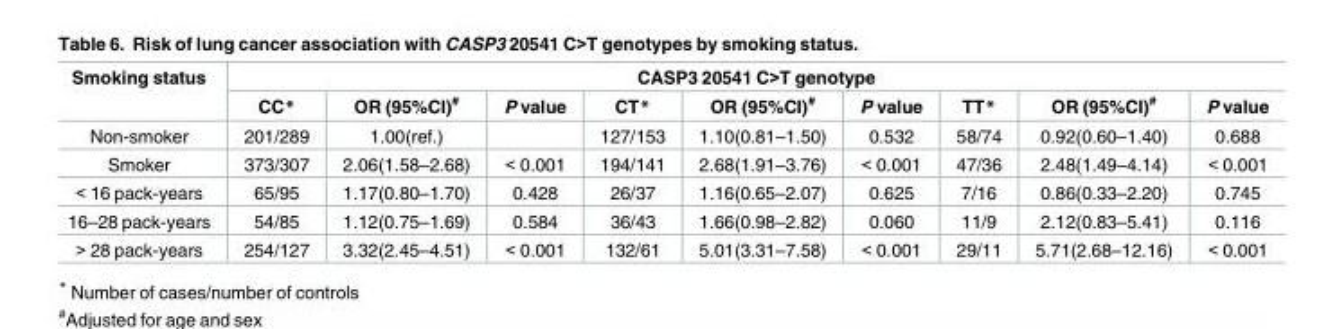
<table><thead><tr><td rowspan="2">Smoking status</td><td colspan="9">CASP3 20541 C&gt;T genotype</td></tr><tr><td>CC*</td><td>OR (95%CI)<sup>#</sup></td><td>P value</td><td>CT*</td><td>OR (95%CI)<sup>#</sup></td><td>P value</td><td>TT*</td><td>OR (95%CI)<sup>#</sup></td><td>P value</td></tr></thead><tbody><tr><td>Non-smoker</td><td>201/289</td><td>1.00(ref.)</td><td></td><td>127/153</td><td>1.10(0.81–1.50)</td><td>0.532</td><td>58/74</td><td>0.92(0.60–1.40)</td><td>0.688</td></tr><tr><td>Smoker</td><td>373/307</td><td>2.06(1.58–2.68)</td><td>&lt; 0.001</td><td>194/141</td><td>2.68(1.91–3.76)</td><td>&lt; 0.001</td><td>47/36</td><td>2.48(1.49–4.14)</td><td>&lt; 0.001</td></tr><tr><td>&lt; 16 pack-years</td><td>65/95</td><td>1.17(0.80–1.70)</td><td>0.428</td><td>26/37</td><td>1.16(0.65–2.07)</td><td>0.625</td><td>7/16</td><td>0.86(0.33–2.20)</td><td>0.745</td></tr><tr><td>16–28 pack-years</td><td>54/85</td><td>1.12(0.75–1.69)</td><td>0.584</td><td>36/43</td><td>1.66(0.98–2.82)</td><td>0.060</td><td>11/9</td><td>2.12(0.83–5.41)</td><td>0.116</td></tr><tr><td>&gt; 28 pack-years</td><td>254/127</td><td>3.32(2.45–4.51)</td><td>&lt; 0.001</td><td>132/61</td><td>5.01(3.31–7.58)</td><td>&lt; 0.001</td><td>29/11</td><td>5.71(2.68–12.16)</td><td>&lt; 0.001</td></tr></tbody></table>